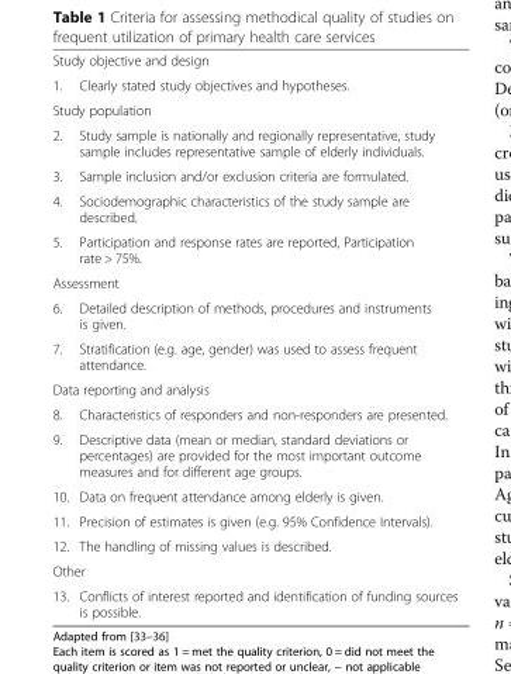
<table><tbody><tr><td colspan="2">Study objective and design</td></tr><tr><td>1.</td><td>Clearly stated study objectives and hypotheses.</td></tr><tr><td colspan="2">Study population</td></tr><tr><td>2.</td><td>Study sample is nationally and regionally representative, study sample includes representative sample of elderly individuals.</td></tr><tr><td>3.</td><td>Sample inclusion and/or exclusion criteria are formulated.</td></tr><tr><td>4.</td><td>Sociodemographic characteristics of the study sample are described.</td></tr><tr><td>5.</td><td>Participation and response rates are reported, Participation rate &gt; 75%.</td></tr><tr><td colspan="2">Assessment</td></tr><tr><td>6.</td><td>Detailed description of methods, procedures and instruments is given.</td></tr><tr><td>7.</td><td>Stratification (e.g. age, gender) was used to assess frequent attendance.</td></tr><tr><td colspan="2">Data reporting and analysis</td></tr><tr><td>8.</td><td>Characteristics of responders and non-responders are presented.</td></tr><tr><td>9.</td><td>Descriptive data (mean or median, standard deviations or percentages) are provided for the most important outcome measures and for different age groups.</td></tr><tr><td>10.</td><td>Data on frequent attendance among elderly is given.</td></tr><tr><td>11.</td><td>Precision of estimates is given (e.g. 95% Confidence Intervals).</td></tr><tr><td>12.</td><td>The handling of missing values is described.</td></tr><tr><td colspan="2">Other</td></tr><tr><td>13.</td><td>Conflicts of interest reported and identification of funding sources is possible.</td></tr></tbody></table>